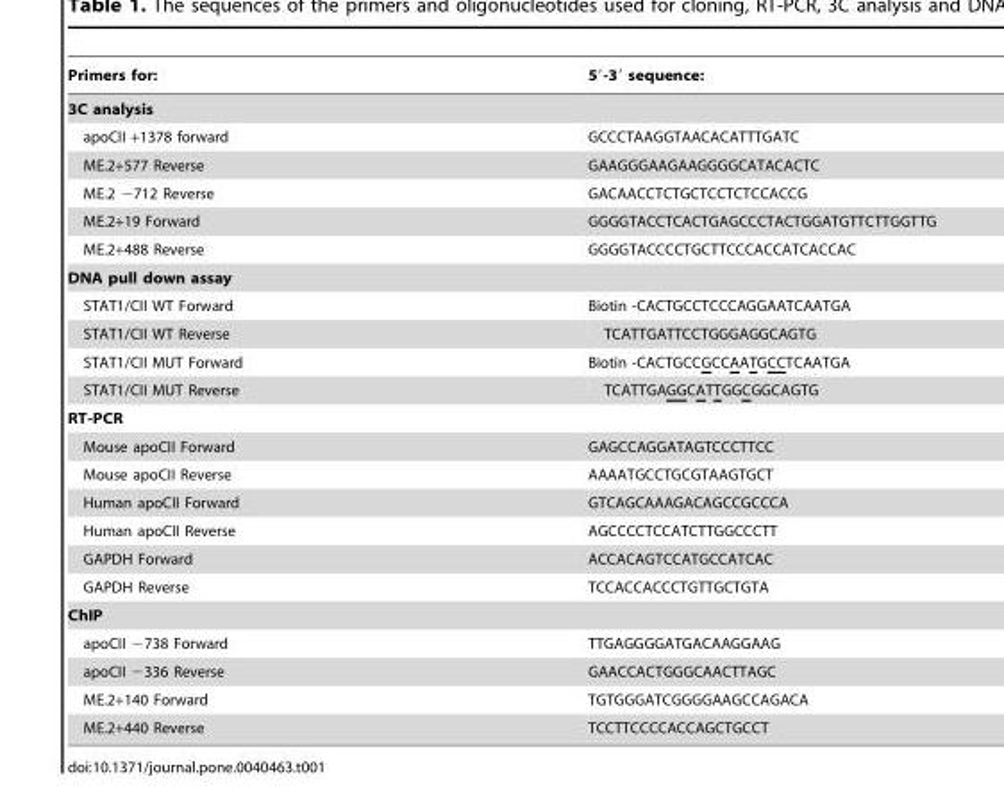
<table><thead><tr><td>Primers for:</td><td>5′-3′ sequence:</td></tr></thead><tbody><tr><td colspan="2">3C analysis</td></tr><tr><td>apoCII +1378 forward</td><td>GCCCTAAGGTAACACATTTGATC</td></tr><tr><td>ME.2+577 Reverse</td><td>GAAGGGAAGAAGGGGCATACACTC</td></tr><tr><td>ME.2 −712 Reverse</td><td>GACAACCTCTGCTCCTCTCCACCG</td></tr><tr><td>ME.2+19 Forward</td><td>GGGGTACCTCACTGAGCCCTACTGGATGTTCTTGGTTG</td></tr><tr><td>ME.2+488 Reverse</td><td>GGGGTACCCCTGCTTCCCACCATCACCAC</td></tr><tr><td colspan="2">DNA pull down assay</td></tr><tr><td>STAT1/CII WT Forward</td><td>Biotin -CACTGCCTCCCAGGAATCAATGA</td></tr><tr><td>STAT1/CII WT Reverse</td><td>TCATTGATTCCTGGGAGGCAGTG</td></tr><tr><td>STAT1/CII MUT Forward</td><td>Biotin -CACTGCCGCCAATGCCTCAATGA</td></tr><tr><td>STAT1/CII MUT Reverse</td><td>TCATTGAGGCATTGGCGGCAGTG</td></tr><tr><td colspan="2">RT-PCR</td></tr><tr><td>Mouse apoCII Forward</td><td>GAGCCAGGATAGTCCCTTCC</td></tr><tr><td>Mouse apoCII Reverse</td><td>AAAATGCCTGCGTAAGTGCT</td></tr><tr><td>Human apoCII Forward</td><td>GTCAGCAAAGACAGCCGCCCA</td></tr><tr><td>Human apoCII Reverse</td><td>AGCCCCTCCATCTTGGCCCTT</td></tr><tr><td>GAPDH Forward</td><td>ACCACAGTCCATGCCATCAC</td></tr><tr><td>GAPDH Reverse</td><td>TCCACCACCCTGTTGCTGTA</td></tr><tr><td colspan="2">ChIP</td></tr><tr><td>apoCII −738 Forward</td><td>TTGAGGGGATGACAAGGAAG</td></tr><tr><td>apoCII −336 Reverse</td><td>GAACCACTGGGCAACTTAGC</td></tr><tr><td>ME.2+140 Forward</td><td>TGTGGGATCGGGGAAGCCAGACA</td></tr><tr><td>ME.2+440 Reverse</td><td>TCCTTCCCCACCAGCTGCCT</td></tr></tbody></table>